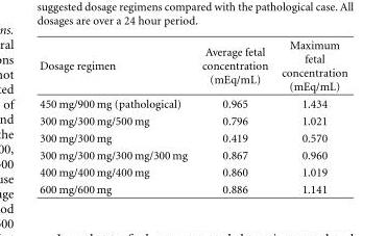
<table><thead><tr><td>Dosage regimen</td><td>Average fetal concentration (mEq/mL)</td><td>Maximum fetal concentration (mEq/mL)</td></tr></thead><tbody><tr><td>450 mg/900 mg (pathological)</td><td>0.965</td><td>1.434</td></tr><tr><td>300 mg/300 mg/500 mg</td><td>0.796</td><td>1.021</td></tr><tr><td>300 mg/300 mg</td><td>0.419</td><td>0.570</td></tr><tr><td>300 mg/300 mg/300 mg/300 mg</td><td>0.867</td><td>0.960</td></tr><tr><td>400 mg/400 mg/400 mg</td><td>0.860</td><td>1.019</td></tr><tr><td>600 mg/600 mg</td><td>0.886</td><td>1.141</td></tr></tbody></table>